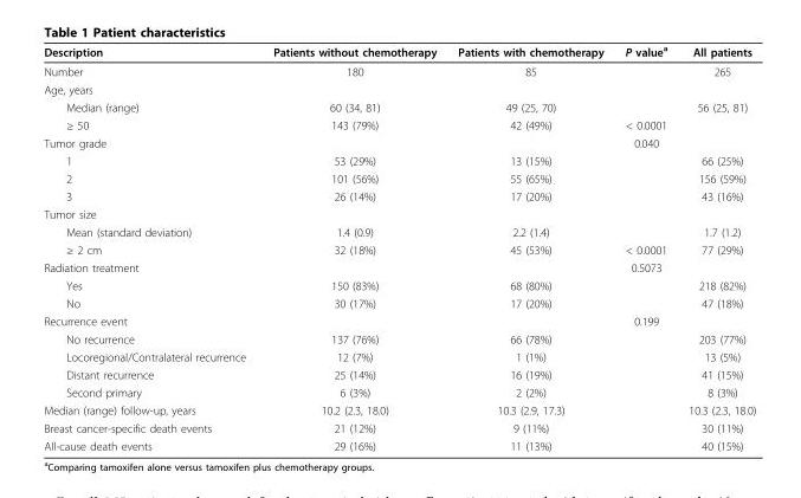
<table><thead><tr><td>Description</td><td>Patients without chemotherapy</td><td>Patients with chemotherapy</td><td>P value<sup>a</sup></td><td>All patients</td></tr></thead><tbody><tr><td>Number</td><td>180</td><td>85</td><td></td><td>265</td></tr><tr><td colspan="5">Age, years</td></tr><tr><td>Median (range)</td><td>60 (34, 81)</td><td>49 (25, 70)</td><td></td><td>56 (25, 81)</td></tr><tr><td>≥ 50</td><td>143 (79%)</td><td>42 (49%)</td><td>&lt; 0.0001</td><td></td></tr><tr><td>Tumor grade</td><td></td><td></td><td>0.040</td><td></td></tr><tr><td>1</td><td>53 (29%)</td><td>13 (15%)</td><td></td><td>66 (25%)</td></tr><tr><td>2</td><td>101 (56%)</td><td>55 (65%)</td><td></td><td>156 (59%)</td></tr><tr><td>3</td><td>26 (14%)</td><td>17 (20%)</td><td></td><td>43 (16%)</td></tr><tr><td colspan="5">Tumor size</td></tr><tr><td>Mean (standard deviation)</td><td>1.4 (0.9)</td><td>2.2 (1.4)</td><td></td><td>1.7 (1.2)</td></tr><tr><td>≥ 2 cm</td><td>32 (18%)</td><td>45 (53%)</td><td>&lt; 0.0001</td><td>77 (29%)</td></tr><tr><td>Radiation treatment</td><td></td><td></td><td>0.5073</td><td></td></tr><tr><td>Yes</td><td>150 (83%)</td><td>68 (80%)</td><td></td><td>218 (82%)</td></tr><tr><td>No</td><td>30 (17%)</td><td>17 (20%)</td><td></td><td>47 (18%)</td></tr><tr><td>Recurrence event</td><td></td><td></td><td>0.199</td><td></td></tr><tr><td>No recurrence</td><td>137 (76%)</td><td>66 (78%)</td><td></td><td>203 (77%)</td></tr><tr><td>Locoregional/Contralateral recurrence</td><td>12 (7%)</td><td>1 (1%)</td><td></td><td>13 (5%)</td></tr><tr><td>Distant recurrence</td><td>25 (14%)</td><td>16 (19%)</td><td></td><td>41 (15%)</td></tr><tr><td>Second primary</td><td>6 (3%)</td><td>2 (2%)</td><td></td><td>8 (3%)</td></tr><tr><td>Median (range) follow-up, years</td><td>10.2 (2.3, 18.0)</td><td>10.3 (2.9, 17.3)</td><td></td><td>10.3 (2.3, 18.0)</td></tr><tr><td>Breast cancer-specific death events</td><td>21 (12%)</td><td>9 (11%)</td><td></td><td>30 (11%)</td></tr><tr><td>All-cause death events</td><td>29 (16%)</td><td>11 (13%)</td><td></td><td>40 (15%)</td></tr></tbody></table>